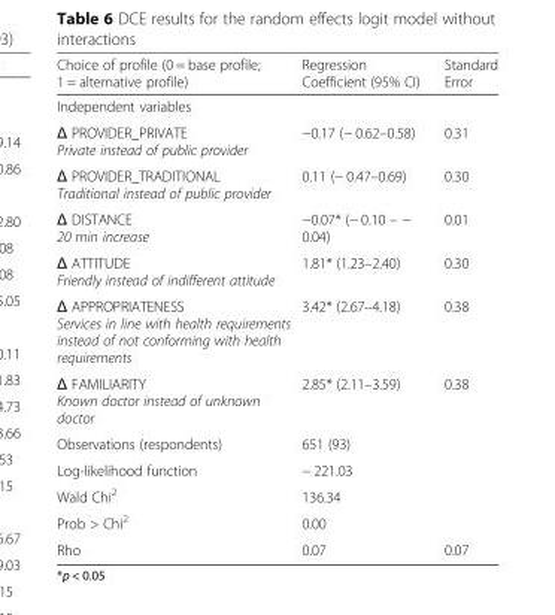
<table><thead><tr><td>Choice of profile (0 = base profile; 1 = alternative profile)</td><td>Regression Coefficient (95% CI)</td><td>Standard Error</td></tr></thead><tbody><tr><td colspan="3">Independent variables</td></tr><tr><td>Δ PROVIDER_PRIVATE Private instead of public provider</td><td>−0.17 (− 0.62–0.58)</td><td>0.31</td></tr><tr><td>Δ PROVIDER_TRADITIONAL Traditional instead of public provider</td><td>0.11 (− 0.47–0.69)</td><td>0.30</td></tr><tr><td>Δ DISTANCE 20 min increase</td><td>−0.07* (− 0.10 – − 0.04)</td><td>0.01</td></tr><tr><td>Δ ATTITUDE Friendly instead of indifferent attitude</td><td>1.81* (1.23–2.40)</td><td>0.30</td></tr><tr><td>Δ APPROPRIATENESS Services in line with health requirements instead of not conforming with health requirements</td><td>3.42* (2.67–4.18)</td><td>0.38</td></tr><tr><td>Δ FAMILIARITY Known doctor instead of unknown doctor</td><td>2.85* (2.11–3.59)</td><td>0.38</td></tr><tr><td>Observations (respondents)</td><td>651 (93)</td><td></td></tr><tr><td>Log-likelihood function</td><td>− 221.03</td><td></td></tr><tr><td>Wald Chi<sup>2</sup></td><td>136.34</td><td></td></tr><tr><td>Prob &gt; Chi<sup>2</sup></td><td>0.00</td><td></td></tr><tr><td>Rho</td><td>0.07</td><td>0.07</td></tr></tbody></table>